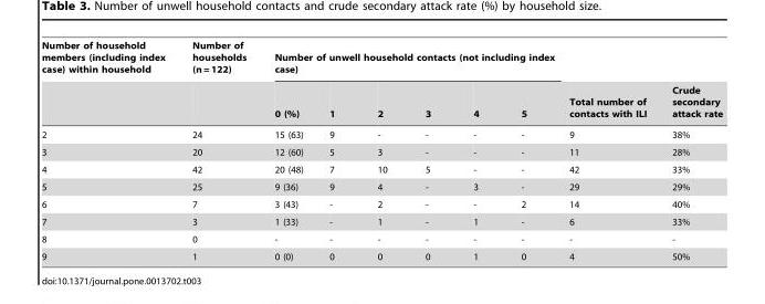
<table><thead><tr><td rowspan="2">Number of household members (including index case) within household</td><td rowspan="2">Number of households (n = 122)</td><td colspan="6">Number of unwell household contacts (not including index case)</td><td rowspan="2">Total number of contacts with ILI</td><td rowspan="2">Crude secondary attack rate</td></tr><tr><td>0 (%)</td><td>1</td><td>2</td><td>3</td><td>4</td><td>5</td></tr></thead><tbody><tr><td>2</td><td>24</td><td>15 (63)</td><td>9</td><td>-</td><td>-</td><td>-</td><td>-</td><td>9</td><td>38%</td></tr><tr><td>3</td><td>20</td><td>12 (60)</td><td>5</td><td>3</td><td>-</td><td>-</td><td>-</td><td>11</td><td>28%</td></tr><tr><td>4</td><td>42</td><td>20 (48)</td><td>7</td><td>10</td><td>5</td><td>-</td><td>-</td><td>42</td><td>33%</td></tr><tr><td>5</td><td>25</td><td>9 (36)</td><td>9</td><td>4</td><td>-</td><td>3</td><td>-</td><td>29</td><td>29%</td></tr><tr><td>6</td><td>7</td><td>3 (43)</td><td>-</td><td>2</td><td>-</td><td>-</td><td>2</td><td>14</td><td>40%</td></tr><tr><td>7</td><td>3</td><td>1 (33)</td><td>-</td><td>1</td><td>-</td><td>1</td><td>-</td><td>6</td><td>33%</td></tr><tr><td>8</td><td>0</td><td>-</td><td>-</td><td>-</td><td>-</td><td>-</td><td>-</td><td>-</td><td>-</td></tr><tr><td>9</td><td>1</td><td>0 (0)</td><td>0</td><td>0</td><td>0</td><td>1</td><td>0</td><td>4</td><td>50%</td></tr></tbody></table>